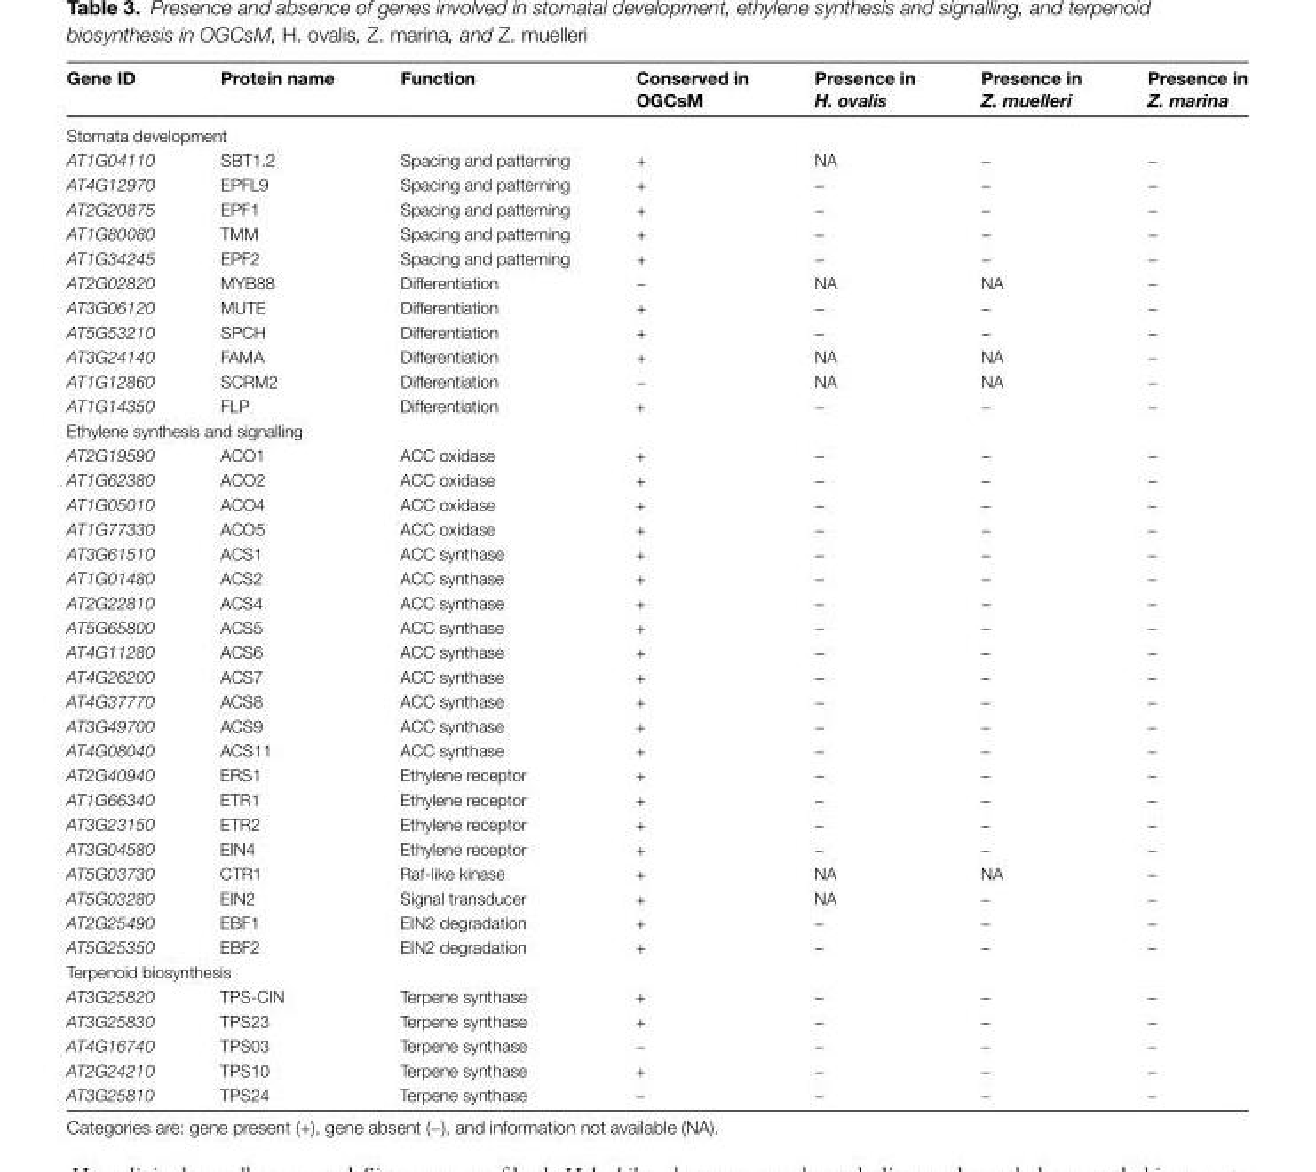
<table><thead><tr><td>Gene ID</td><td>Protein name</td><td>Function</td><td>Conserved in OGCsM</td><td>Presence in H. ovalis</td><td>Presence in Z. muelleri</td><td>Presence in Z. marina</td></tr></thead><tbody><tr><td colspan="7">Stomata development</td></tr><tr><td>AT1G04110</td><td>SBT1.2</td><td>Spacing and patterning</td><td>+</td><td>NA</td><td>−</td><td>−</td></tr><tr><td>AT4G12970</td><td>EPFL9</td><td>Spacing and patterning</td><td>+</td><td>−</td><td>−</td><td>−</td></tr><tr><td>AT2G20875</td><td>EPF1</td><td>Spacing and patterning</td><td>+</td><td>−</td><td>−</td><td>−</td></tr><tr><td>AT1G80080</td><td>TMM</td><td>Spacing and patterning</td><td>+</td><td>−</td><td>−</td><td>−</td></tr><tr><td>AT1G34245</td><td>EPF2</td><td>Spacing and patterning</td><td>+</td><td>−</td><td>−</td><td>−</td></tr><tr><td>AT2G02820</td><td>MYB88</td><td>Differentiation</td><td>−</td><td>NA</td><td>NA</td><td>−</td></tr><tr><td>AT3G06120</td><td>MUTE</td><td>Differentiation</td><td>+</td><td>−</td><td>−</td><td>−</td></tr><tr><td>AT5G53210</td><td>SPCH</td><td>Differentiation</td><td>+</td><td>−</td><td>−</td><td>−</td></tr><tr><td>AT3G24140</td><td>FAMA</td><td>Differentiation</td><td>+</td><td>NA</td><td>NA</td><td>−</td></tr><tr><td>AT1G12860</td><td>SCRM2</td><td>Differentiation</td><td>−</td><td>NA</td><td>NA</td><td>−</td></tr><tr><td>AT1G14350</td><td>FLP</td><td>Differentiation</td><td>+</td><td>−</td><td>−</td><td>−</td></tr><tr><td colspan="7">Ethylene synthesis and signalling</td></tr><tr><td>AT2G19590</td><td>ACO1</td><td>ACC oxidase</td><td>+</td><td>−</td><td>−</td><td>−</td></tr><tr><td>AT1G62380</td><td>ACO2</td><td>ACC oxidase</td><td>+</td><td>−</td><td>−</td><td>−</td></tr><tr><td>AT1G05010</td><td>ACO4</td><td>ACC oxidase</td><td>+</td><td>−</td><td>−</td><td>−</td></tr><tr><td>AT1G77330</td><td>ACO5</td><td>ACC oxidase</td><td>+</td><td>−</td><td>−</td><td>−</td></tr><tr><td>AT3G61510</td><td>ACS1</td><td>ACC synthase</td><td>+</td><td>−</td><td>−</td><td>−</td></tr><tr><td>AT1G01480</td><td>ACS2</td><td>ACC synthase</td><td>+</td><td>−</td><td>−</td><td>−</td></tr><tr><td>AT2G22810</td><td>ACS4</td><td>ACC synthase</td><td>+</td><td>−</td><td>−</td><td>−</td></tr><tr><td>AT5G65800</td><td>ACS5</td><td>ACC synthase</td><td>+</td><td>−</td><td>−</td><td>−</td></tr><tr><td>AT4G11280</td><td>ACS6</td><td>ACC synthase</td><td>+</td><td>−</td><td>−</td><td>−</td></tr><tr><td>AT4G26200</td><td>ACS7</td><td>ACC synthase</td><td>+</td><td>−</td><td>−</td><td>−</td></tr><tr><td>AT4G37770</td><td>ACS8</td><td>ACC synthase</td><td>+</td><td>−</td><td>−</td><td>−</td></tr><tr><td>AT3G49700</td><td>ACS9</td><td>ACC synthase</td><td>+</td><td>−</td><td>−</td><td>−</td></tr><tr><td>AT4G08040</td><td>ACS11</td><td>ACC synthase</td><td>+</td><td>−</td><td>−</td><td>−</td></tr><tr><td>AT2G40940</td><td>ERS1</td><td>Ethylene receptor</td><td>+</td><td>−</td><td>−</td><td>−</td></tr><tr><td>AT1G66340</td><td>ETR1</td><td>Ethylene receptor</td><td>+</td><td>−</td><td>−</td><td>−</td></tr><tr><td>AT3G23150</td><td>ETR2</td><td>Ethylene receptor</td><td>+</td><td>−</td><td>−</td><td>−</td></tr><tr><td>AT3G04580</td><td>EIN4</td><td>Ethylene receptor</td><td>+</td><td>−</td><td>−</td><td>−</td></tr><tr><td>AT5G03730</td><td>CTR1</td><td>Raf-like kinase</td><td>+</td><td>NA</td><td>NA</td><td>−</td></tr><tr><td>AT5G03280</td><td>EIN2</td><td>Signal transducer</td><td>+</td><td>NA</td><td>−</td><td>−</td></tr><tr><td>AT2G25490</td><td>EBF1</td><td>EIN2 degradation</td><td>+</td><td>−</td><td>−</td><td>−</td></tr><tr><td>AT5G25350</td><td>EBF2</td><td>EIN2 degradation</td><td>+</td><td>−</td><td>−</td><td>−</td></tr><tr><td colspan="7">Terpenoid biosynthesis</td></tr><tr><td>AT3G25820</td><td>TPS-CIN</td><td>Terpene synthase</td><td>+</td><td>−</td><td>−</td><td>−</td></tr><tr><td>AT3G25830</td><td>TPS23</td><td>Terpene synthase</td><td>+</td><td>−</td><td>−</td><td>−</td></tr><tr><td>AT4G16740</td><td>TPS03</td><td>Terpene synthase</td><td>−</td><td>−</td><td>−</td><td>−</td></tr><tr><td>AT2G24210</td><td>TPS10</td><td>Terpene synthase</td><td>+</td><td>−</td><td>−</td><td>−</td></tr><tr><td>AT3G25810</td><td>TPS24</td><td>Terpene synthase</td><td>−</td><td>−</td><td>−</td><td>−</td></tr></tbody></table>